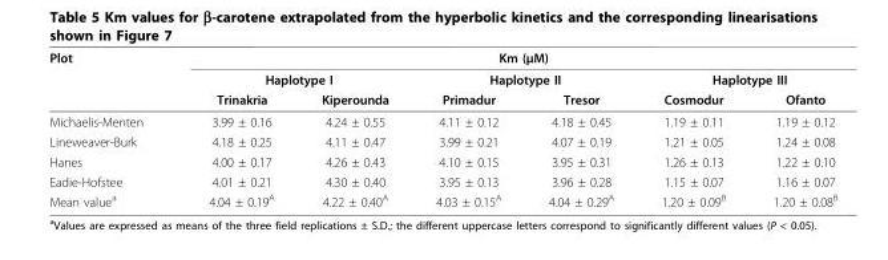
<table><thead><tr><td rowspan="3">Plot</td><td colspan="6">Km (μM)</td></tr><tr><td colspan="2">Haplotype I</td><td colspan="2">Haplotype II</td><td colspan="2">Haplotype III</td></tr><tr><td>Trinakria</td><td>Kiperounda</td><td>Primadur</td><td>Tresor</td><td>Cosmodur</td><td>Ofanto</td></tr></thead><tbody><tr><td>Michaelis-Menten</td><td>3.99 ± 0.16</td><td>4.24 ± 0.55</td><td>4.11 ± 0.12</td><td>4.18 ± 0.45</td><td>1.19 ± 0.11</td><td>1.19 ± 0.12</td></tr><tr><td>Lineweaver-Burk</td><td>4.18 ± 0.25</td><td>4.11 ± 0.47</td><td>3.99 ± 0.21</td><td>4.07 ± 0.19</td><td>1.21 ± 0.05</td><td>1.24 ± 0.08</td></tr><tr><td>Hanes</td><td>4.00 ± 0.17</td><td>4.26 ± 0.43</td><td>4.10 ± 0.15</td><td>3.95 ± 0.31</td><td>1.26 ± 0.13</td><td>1.22 ± 0.10</td></tr><tr><td>Eadie-Hofstee</td><td>4.01 ± 0.21</td><td>4.30 ± 0.40</td><td>3.95 ± 0.13</td><td>3.96 ± 0.28</td><td>1.15 ± 0.07</td><td>1.16 ± 0.07</td></tr><tr><td>Mean value<sup>a</sup></td><td>4.04 ± 0.19<sup>A</sup></td><td>4.22 ± 0.40<sup>A</sup></td><td>4.03 ± 0.15<sup>A</sup></td><td>4.04 ± 0.29<sup>A</sup></td><td>1.20 ± 0.09<sup>B</sup></td><td>1.20 ± 0.08<sup>B</sup></td></tr></tbody></table>